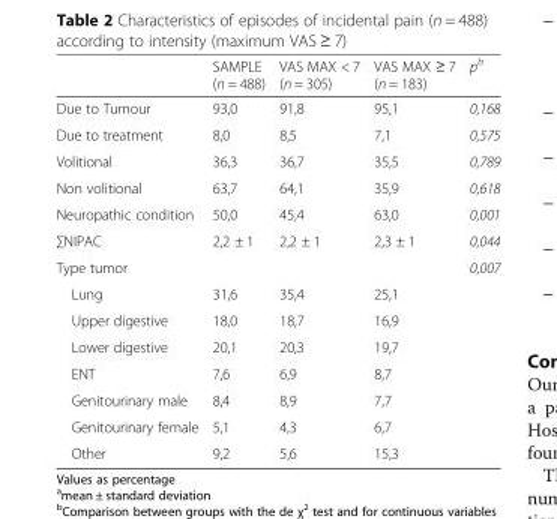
<table><thead><tr><td></td><td>SAMPLE (n = 488)</td><td>VAS MAX &lt; 7 (n = 305)</td><td>VAS MAX ≥ 7 (n = 183)</td><td>p<sup>b</sup></td></tr></thead><tbody><tr><td>Due to Tumour</td><td>93,0</td><td>91,8</td><td>95,1</td><td>0,168</td></tr><tr><td>Due to treatment</td><td>8,0</td><td>8,5</td><td>7,1</td><td>0,575</td></tr><tr><td>Volitional</td><td>36,3</td><td>36,7</td><td>35,5</td><td>0,789</td></tr><tr><td>Non volitional</td><td>63,7</td><td>64,1</td><td>35,9</td><td>0,618</td></tr><tr><td>Neuropathic condition</td><td>50,0</td><td>45,4</td><td>63,0</td><td>0,001</td></tr><tr><td>∑NIPAC</td><td>2,2 ± 1</td><td>2,2 ± 1</td><td>2,3 ± 1</td><td>0,044</td></tr><tr><td>Type tumor</td><td></td><td></td><td></td><td>0,007</td></tr><tr><td>Lung</td><td>31,6</td><td>35,4</td><td>25,1</td><td></td></tr><tr><td>Upper digestive</td><td>18,0</td><td>18,7</td><td>16,9</td><td></td></tr><tr><td>Lower digestive</td><td>20,1</td><td>20,3</td><td>19,7</td><td></td></tr><tr><td>ENT</td><td>7,6</td><td>6,9</td><td>8,7</td><td></td></tr><tr><td>Genitourinary male</td><td>8,4</td><td>8,9</td><td>7,7</td><td></td></tr><tr><td>Genitourinary female</td><td>5,1</td><td>4,3</td><td>6,7</td><td></td></tr><tr><td>Other</td><td>9,2</td><td>5,6</td><td>15,3</td><td></td></tr></tbody></table>